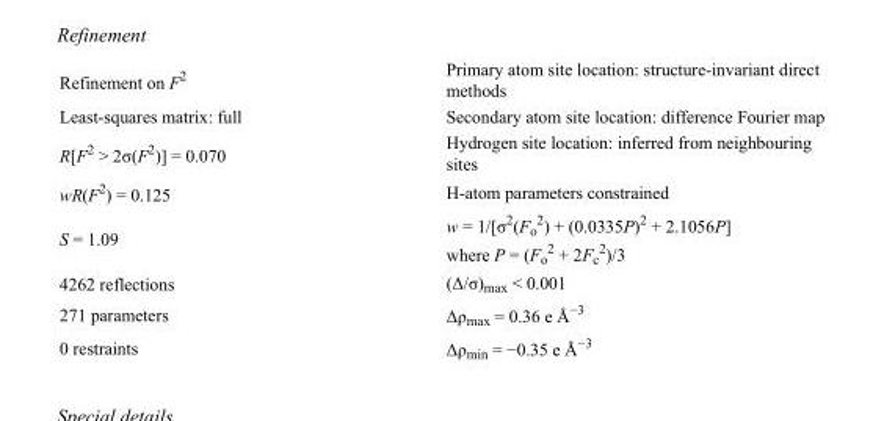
<table><tbody><tr><td>Refinement on F<sup>2</sup></td><td>Primary atom site location: structure-invariant direct methods</td></tr><tr><td>Least-squares matrix: full</td><td>Secondary atom site location: difference Fourier map</td></tr><tr><td>R[F<sup>2</sup> &gt; 2σ(F<sup>2</sup>)] = 0.070</td><td>Hydrogen site location: inferred from neighbouring sites</td></tr><tr><td>wR(F<sup>2</sup>) = 0.125</td><td>H-atom parameters constrained</td></tr><tr><td>S = 1.09</td><td>w = 1/[σ<sup>2</sup>(F<sub>o</sub> <sup>2</sup>) + (0.0335P)<sup>2</sup> + 2.1056P] where P = (F<sub>o</sub> <sup>2</sup> + 2F<sub>c</sub> <sup>2</sup>)/3</td></tr><tr><td>4262 reflections</td><td>(Δ/σ)<sub>max</sub> &lt; 0.001</td></tr><tr><td>271 parameters</td><td>Δρ<sub>max</sub> = 0.36 e Å<sup>−3</sup></td></tr><tr><td>0 restraints</td><td>Δρ<sub>min</sub> = −0.35 e Å<sup>−3</sup></td></tr></tbody></table>